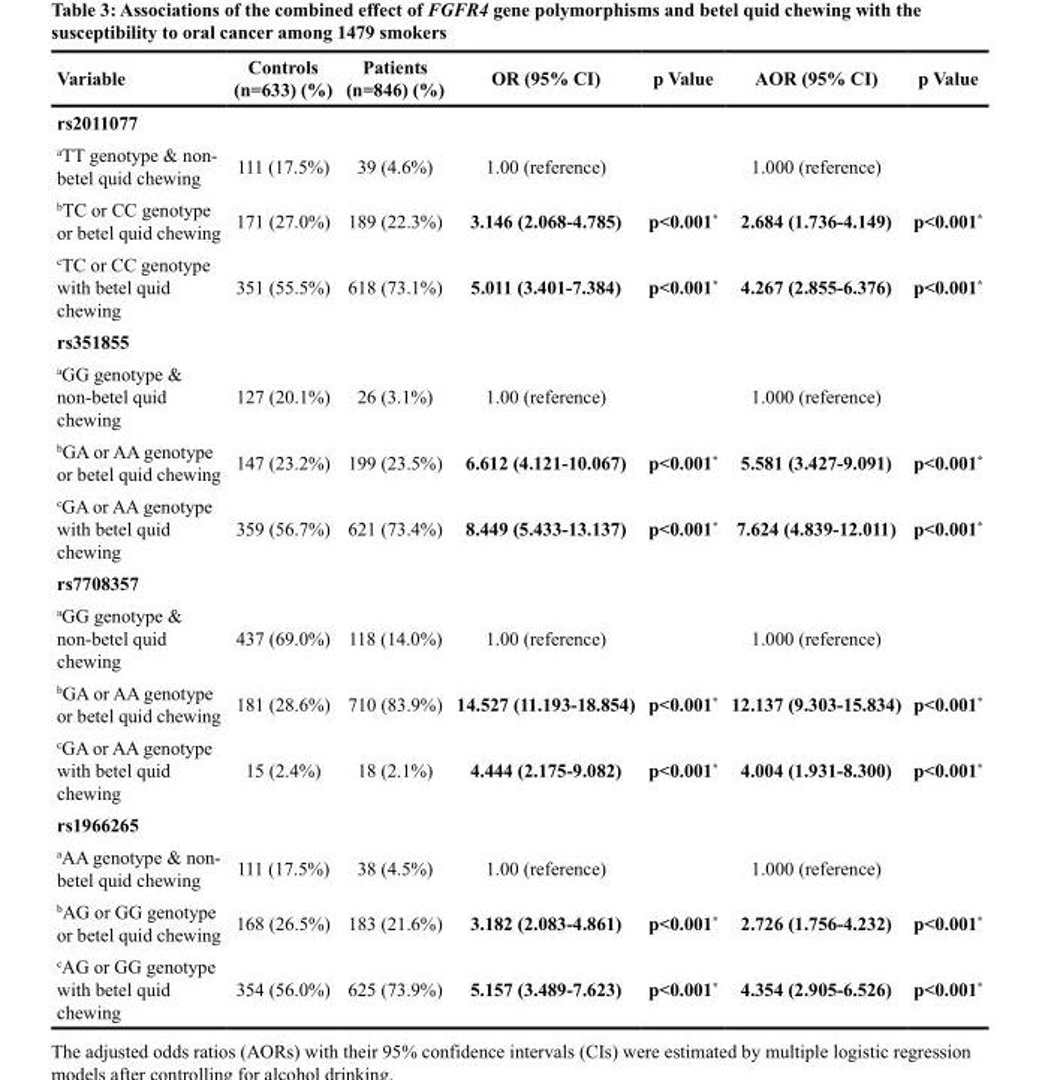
<table><thead><tr><td>Variable</td><td>Controls (n=633) (%)</td><td>Patients (n=846) (%)</td><td>OR (95% CI)</td><td>p Value</td><td>AOR (95% CI)</td><td>p Value</td></tr></thead><tbody><tr><td colspan="7">rs2011077</td></tr><tr><td><sup>a</sup>TT genotype &amp; non- betel quid chewing</td><td>111 (17.5%)</td><td>39 (4.6%)</td><td>1.00 (reference)</td><td></td><td>1.000 (reference)</td><td></td></tr><tr><td><sup>b</sup>TC or CC genotype or betel quid chewing</td><td>171 (27.0%)</td><td>189 (22.3%)</td><td>3.146 (2.068-4.785)</td><td>p&lt;0.001*</td><td>2.684 (1.736-4.149)</td><td>p&lt;0.001*</td></tr><tr><td><sup>c</sup>TC or CC genotype with betel quid chewing</td><td>351 (55.5%)</td><td>618 (73.1%)</td><td>5.011 (3.401-7.384)</td><td>p&lt;0.001*</td><td>4.267 (2.855-6.376)</td><td>p&lt;0.001*</td></tr><tr><td colspan="7">rs351855</td></tr><tr><td><sup>a</sup>GG genotype &amp; non-betel quid chewing</td><td>127 (20.1%)</td><td>26 (3.1%)</td><td>1.00 (reference)</td><td></td><td>1.000 (reference)</td><td></td></tr><tr><td><sup>b</sup>GA or AA genotype or betel quid chewing</td><td>147 (23.2%)</td><td>199 (23.5%)</td><td>6.612 (4.121-10.067)</td><td>p&lt;0.001*</td><td>5.581 (3.427-9.091)</td><td>p&lt;0.001*</td></tr><tr><td><sup>c</sup>GA or AA genotype with betel quid chewing</td><td>359 (56.7%)</td><td>621 (73.4%)</td><td>8.449 (5.433-13.137)</td><td>p&lt;0.001*</td><td>7.624 (4.839-12.011)</td><td>p&lt;0.001*</td></tr><tr><td colspan="7">rs7708357</td></tr><tr><td><sup>a</sup>GG genotype &amp; non-betel quid chewing</td><td>437 (69.0%)</td><td>118 (14.0%)</td><td>1.00 (reference)</td><td></td><td>1.000 (reference)</td><td></td></tr><tr><td><sup>b</sup>GA or AA genotype or betel quid chewing</td><td>181 (28.6%)</td><td>710 (83.9%)</td><td>14.527 (11.193-18.854)</td><td>p&lt;0.001*</td><td>12.137 (9.303-15.834)</td><td>p&lt;0.001*</td></tr><tr><td><sup>c</sup>GA or AA genotype with betel quid chewing</td><td>15 (2.4%)</td><td>18 (2.1%)</td><td>4.444 (2.175-9.082)</td><td>p&lt;0.001*</td><td>4.004 (1.931-8.300)</td><td>p&lt;0.001*</td></tr><tr><td colspan="7">rs1966265</td></tr><tr><td><sup>a</sup>AA genotype &amp; non- betel quid chewing</td><td>111 (17.5%)</td><td>38 (4.5%)</td><td>1.00 (reference)</td><td></td><td>1.000 (reference)</td><td></td></tr><tr><td><sup>b</sup>AG or GG genotype or betel quid chewing</td><td>168 (26.5%)</td><td>183 (21.6%)</td><td>3.182 (2.083-4.861)</td><td>p&lt;0.001*</td><td>2.726 (1.756-4.232)</td><td>p&lt;0.001*</td></tr><tr><td><sup>c</sup>AG or GG genotype with betel quid chewing</td><td>354 (56.0%)</td><td>625 (73.9%)</td><td>5.157 (3.489-7.623)</td><td>p&lt;0.001*</td><td>4.354 (2.905-6.526)</td><td>p&lt;0.001*</td></tr></tbody></table>